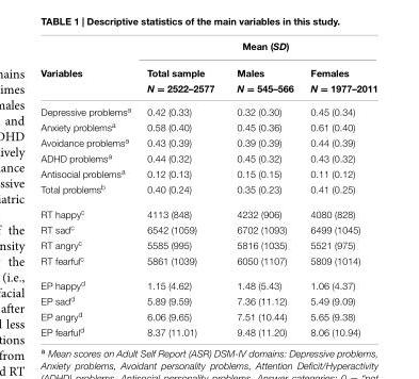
<table><thead><tr><td rowspan="3">Variables</td><td colspan="3">Mean (SD)</td></tr><tr><td rowspan="2">Total sample N = 2522–2577</td><td rowspan="2">Males N = 545–566</td><td rowspan="2">Females N = 1977–2011</td></tr><tr></tr></thead><tbody><tr><td>Depressive problems<sup>a</sup></td><td>0.42 (0.33)</td><td>0.32 (0.30)</td><td>0.45 (0.34)</td></tr><tr><td>Anxiety problems<sup>a</sup></td><td>0.58 (0.40)</td><td>0.45 (0.36)</td><td>0.61 (0.40)</td></tr><tr><td>Avoidance problems<sup>a</sup></td><td>0.43 (0.39)</td><td>0.39 (0.39)</td><td>0.44 (0.39)</td></tr><tr><td>ADHD problems<sup>a</sup></td><td>0.44 (0.32)</td><td>0.45 (0.32)</td><td>0.43 (0.32)</td></tr><tr><td>Antisocial problems<sup>a</sup></td><td>0.12 (0.13)</td><td>0.15 (0.15)</td><td>0.11 (0.12)</td></tr><tr><td>Total problems<sup>b</sup></td><td>0.40 (0.24)</td><td>0.35 (0.23)</td><td>0.41 (0.25)</td></tr><tr><td>RT happy<sup>c</sup></td><td>4113 (848)</td><td>4232 (906)</td><td>4080 (828)</td></tr><tr><td>RT sad<sup>c</sup></td><td>6542 (1059)</td><td>6702 (1093)</td><td>6499 (1045)</td></tr><tr><td>RT angry<sup>c</sup></td><td>5585 (995)</td><td>5816 (1035)</td><td>5521 (975)</td></tr><tr><td>RT fearful<sup>c</sup></td><td>5861 (1039)</td><td>6050 (1107)</td><td>5809 (1014)</td></tr><tr><td>EP happy<sup>d</sup></td><td>1.15 (4.62)</td><td>1.48 (5.43)</td><td>1.06 (4.37)</td></tr><tr><td>EP sad<sup>d</sup></td><td>5.89 (9.59)</td><td>7.36 (11.12)</td><td>5.49 (9.09)</td></tr><tr><td>EP angry<sup>d</sup></td><td>6.06 (9.65)</td><td>7.51 (10.44)</td><td>5.65 (9.38)</td></tr><tr><td>EP fearful<sup>d</sup></td><td>8.37 (11.01)</td><td>9.48 (11.20)</td><td>8.06 (10.94)</td></tr></tbody></table>